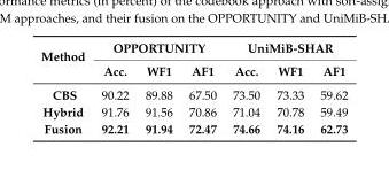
<table><thead><tr><td rowspan="2">Method</td><td colspan="3">OPPORTUNITY</td><td colspan="3">UniMiB-SHAR</td></tr><tr><td>Acc.</td><td>WF1</td><td>AF1</td><td>Acc.</td><td>WF1</td><td>AF1</td></tr></thead><tbody><tr><td>CBS</td><td>90.22</td><td>89.88</td><td>67.50</td><td>73.50</td><td>73.33</td><td>59.62</td></tr><tr><td>Hybrid</td><td>91.76</td><td>91.56</td><td>70.86</td><td>71.04</td><td>70.78</td><td>59.49</td></tr><tr><td>Fusion</td><td>92.21</td><td>91.94</td><td>72.47</td><td>74.66</td><td>74.16</td><td>62.73</td></tr></tbody></table>